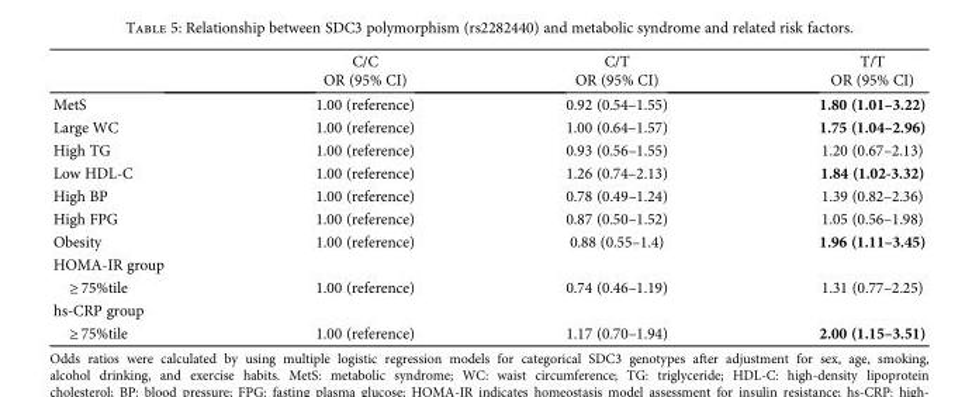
<table><thead><tr><td rowspan="2"></td><td rowspan="2">C/C OR (95% CI)</td><td rowspan="2">C/T OR (95% CI)</td><td rowspan="2">T/T OR (95% CI)</td></tr><tr></tr></thead><tbody><tr><td>MetS</td><td>1.00 (reference)</td><td>0.92 (0.54–1.55)</td><td>1.80 (1.01–3.22)</td></tr><tr><td>Large WC</td><td>1.00 (reference)</td><td>1.00 (0.64–1.57)</td><td>1.75 (1.04–2.96)</td></tr><tr><td>High TG</td><td>1.00 (reference)</td><td>0.93 (0.56–1.55)</td><td>1.20 (0.67–2.13)</td></tr><tr><td>Low HDL-C</td><td>1.00 (reference)</td><td>1.26 (0.74–2.13)</td><td>1.84 (1.02-3.32)</td></tr><tr><td>High BP</td><td>1.00 (reference)</td><td>0.78 (0.49–1.24)</td><td>1.39 (0.82–2.36)</td></tr><tr><td>High FPG</td><td>1.00 (reference)</td><td>0.87 (0.50–1.52)</td><td>1.05 (0.56–1.98)</td></tr><tr><td>Obesity</td><td>1.00 (reference)</td><td>0.88 (0.55–1.4)</td><td>1.96 (1.11–3.45)</td></tr><tr><td colspan="4">HOMA-IR group</td></tr><tr><td>≥ 75%tile</td><td>1.00 (reference)</td><td>0.74 (0.46–1.19)</td><td>1.31 (0.77–2.25)</td></tr><tr><td colspan="4">hs-CRP group</td></tr><tr><td>≥ 75%tile</td><td>1.00 (reference)</td><td>1.17 (0.70–1.94)</td><td>2.00 (1.15–3.51)</td></tr></tbody></table>